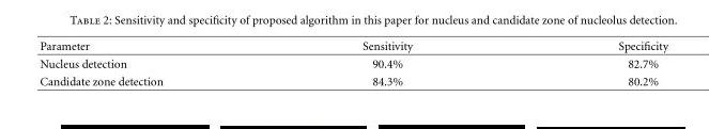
<table><thead><tr><td>Parameter</td><td>Sensitivity</td><td>Specificity</td></tr></thead><tbody><tr><td>Nucleus detection</td><td>90.4%</td><td>82.7%</td></tr><tr><td>Candidate zone detection</td><td>84.3%</td><td>80.2%</td></tr></tbody></table>